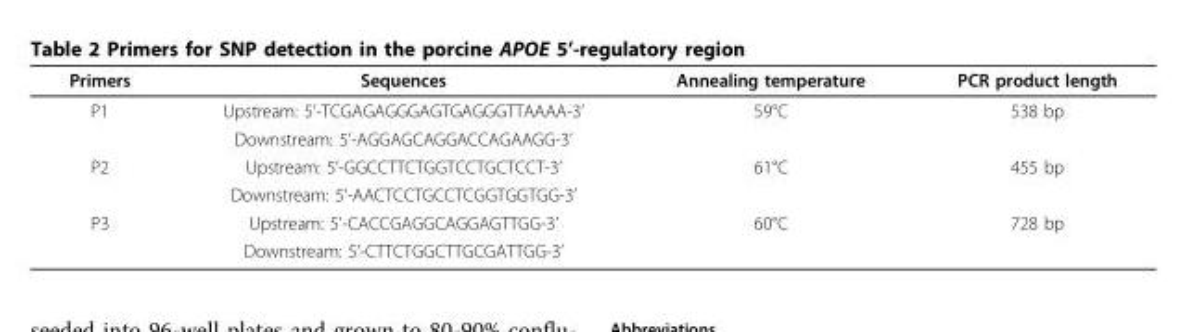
<table><thead><tr><td>Primers</td><td>Sequences</td><td>Annealing temperature</td><td>PCR product length</td></tr></thead><tbody><tr><td rowspan="2">P1</td><td>Upstream: 5’-TCGAGAGGGAGTGAGGGTTAAAA-3’</td><td>59°C</td><td>538 bp</td></tr><tr><td>Downstream: 5’-AGGAGCAGGACCAGAAGG-3’</td><td></td><td></td></tr><tr><td rowspan="2">P2</td><td>Upstream: 5’-GGCCTTCTGGTCCTGCTCCT-3’</td><td>61°C</td><td>455 bp</td></tr><tr><td>Downstream: 5’-AACTCCTGCCTCGGTGGTGG-3’</td><td></td><td></td></tr><tr><td rowspan="2">P3</td><td>Upstream: 5’-CACCGAGGCAGGAGTTGG-3’</td><td>60°C</td><td>728 bp</td></tr><tr><td>Downstream: 5’-CTTCTGGCTTGCGATTGG-3’</td><td></td><td></td></tr></tbody></table>